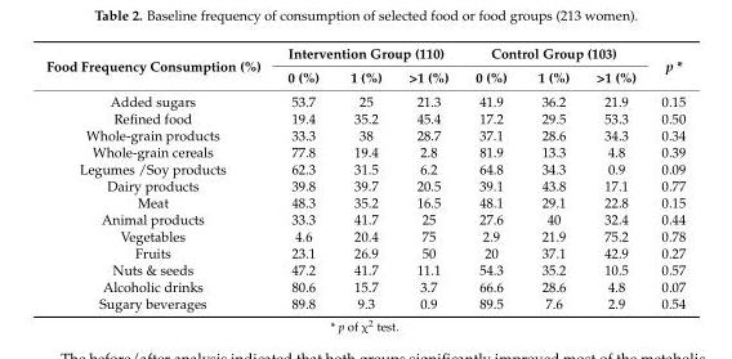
<table><thead><tr><td rowspan="2">Food Frequency Consumption (%)</td><td colspan="3">Intervention Group (110)</td><td colspan="3">Control Group (103)</td><td rowspan="2">p *</td></tr><tr><td>0 (%)</td><td>1 (%)</td><td>&gt;1 (%)</td><td>0 (%)</td><td>1 (%)</td><td>&gt;1 (%)</td></tr></thead><tbody><tr><td>Added sugars</td><td>53.7</td><td>25</td><td>21.3</td><td>41.9</td><td>36.2</td><td>21.9</td><td>0.15</td></tr><tr><td>Refined food</td><td>19.4</td><td>35.2</td><td>45.4</td><td>17.2</td><td>29.5</td><td>53.3</td><td>0.50</td></tr><tr><td>Whole-grain products</td><td>33.3</td><td>38</td><td>28.7</td><td>37.1</td><td>28.6</td><td>34.3</td><td>0.34</td></tr><tr><td>Whole-grain cereals</td><td>77.8</td><td>19.4</td><td>2.8</td><td>81.9</td><td>13.3</td><td>4.8</td><td>0.39</td></tr><tr><td>Legumes /Soy products</td><td>62.3</td><td>31.5</td><td>6.2</td><td>64.8</td><td>34.3</td><td>0.9</td><td>0.09</td></tr><tr><td>Dairy products</td><td>39.8</td><td>39.7</td><td>20.5</td><td>39.1</td><td>43.8</td><td>17.1</td><td>0.77</td></tr><tr><td>Meat</td><td>48.3</td><td>35.2</td><td>16.5</td><td>48.1</td><td>29.1</td><td>22.8</td><td>0.15</td></tr><tr><td>Animal products</td><td>33.3</td><td>41.7</td><td>25</td><td>27.6</td><td>40</td><td>32.4</td><td>0.44</td></tr><tr><td>Vegetables</td><td>4.6</td><td>20.4</td><td>75</td><td>2.9</td><td>21.9</td><td>75.2</td><td>0.78</td></tr><tr><td>Fruits</td><td>23.1</td><td>26.9</td><td>50</td><td>20</td><td>37.1</td><td>42.9</td><td>0.27</td></tr><tr><td>Nuts &amp; seeds</td><td>47.2</td><td>41.7</td><td>11.1</td><td>54.3</td><td>35.2</td><td>10.5</td><td>0.57</td></tr><tr><td>Alcoholic drinks</td><td>80.6</td><td>15.7</td><td>3.7</td><td>66.6</td><td>28.6</td><td>4.8</td><td>0.07</td></tr><tr><td>Sugary beverages</td><td>89.8</td><td>9.3</td><td>0.9</td><td>89.5</td><td>7.6</td><td>2.9</td><td>0.54</td></tr></tbody></table>